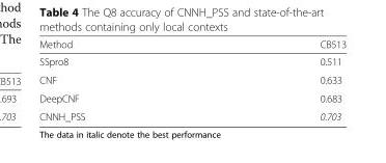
<table><thead><tr><td>Method</td><td>CB513</td></tr></thead><tbody><tr><td>SSpro8</td><td>0.511</td></tr><tr><td>CNF</td><td>0.633</td></tr><tr><td>DeepCNF</td><td>0.683</td></tr><tr><td>CNNH_PSS</td><td>0.703</td></tr></tbody></table>